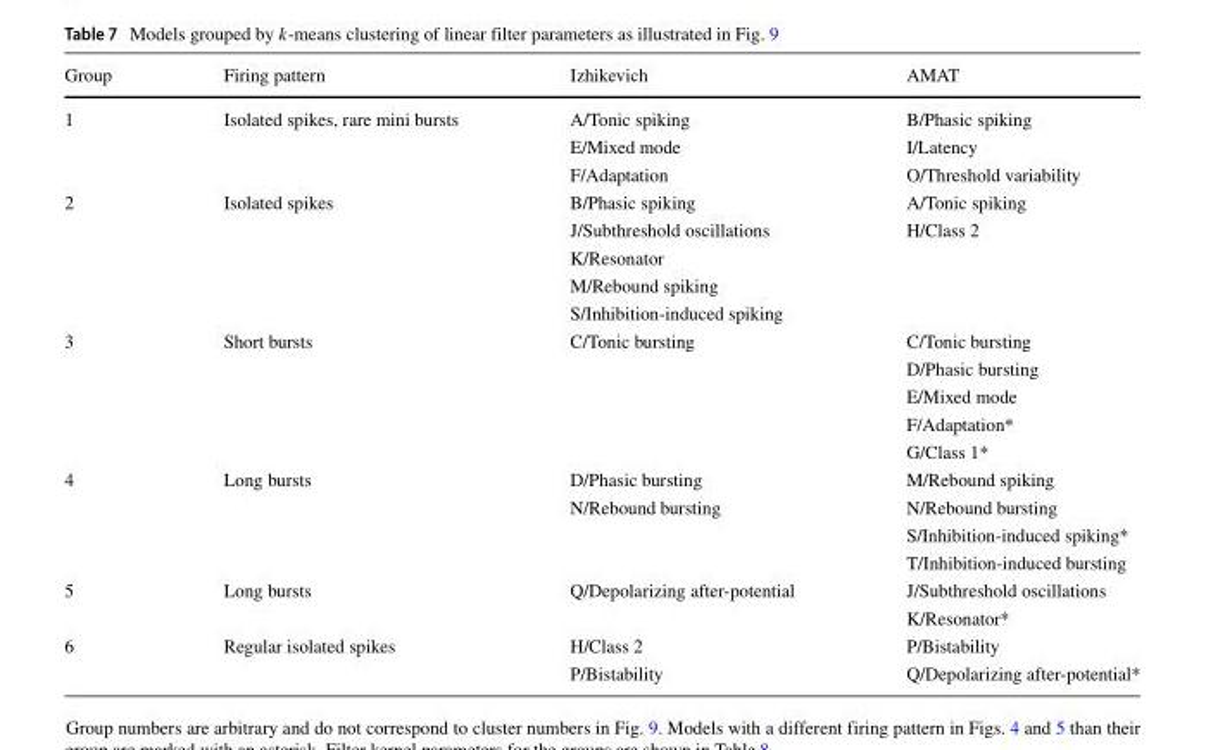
<table><thead><tr><td>Group</td><td>Firing pattern</td><td>Izhikevich</td><td>AMAT</td></tr></thead><tbody><tr><td rowspan="3">1</td><td>Isolated spikes, rare mini bursts</td><td>A/Tonic spiking</td><td>B/Phasic spiking</td></tr><tr><td></td><td>E/Mixed mode</td><td>I/Latency</td></tr><tr><td></td><td>F/Adaptation</td><td>O/Threshold variability</td></tr><tr><td rowspan="5">2</td><td>Isolated spikes</td><td>B/Phasic spiking</td><td>A/Tonic spiking</td></tr><tr><td></td><td>J/Subthreshold oscillations</td><td>H/Class 2</td></tr><tr><td></td><td>K/Resonator</td><td></td></tr><tr><td></td><td>M/Rebound spiking</td><td></td></tr><tr><td></td><td>S/Inhibition-induced spiking</td><td></td></tr><tr><td rowspan="5">3</td><td>Short bursts</td><td>C/Tonic bursting</td><td>C/Tonic bursting</td></tr><tr><td></td><td></td><td>D/Phasic bursting</td></tr><tr><td></td><td></td><td>E/Mixed mode</td></tr><tr><td></td><td></td><td>F/Adaptation*</td></tr><tr><td></td><td></td><td>G/Class 1*</td></tr><tr><td rowspan="4">4</td><td>Long bursts</td><td>D/Phasic bursting</td><td>M/Rebound spiking</td></tr><tr><td></td><td>N/Rebound bursting</td><td>N/Rebound bursting</td></tr><tr><td></td><td></td><td>S/Inhibition-induced spiking*</td></tr><tr><td></td><td></td><td>T/Inhibition-induced bursting</td></tr><tr><td rowspan="2">5</td><td>Long bursts</td><td>Q/Depolarizing after-potential</td><td>J/Subthreshold oscillations</td></tr><tr><td></td><td></td><td>K/Resonator*</td></tr><tr><td rowspan="2">6</td><td>Regular isolated spikes</td><td>H/Class 2</td><td>P/Bistability</td></tr><tr><td></td><td>P/Bistability</td><td>Q/Depolarizing after-potential*</td></tr></tbody></table>